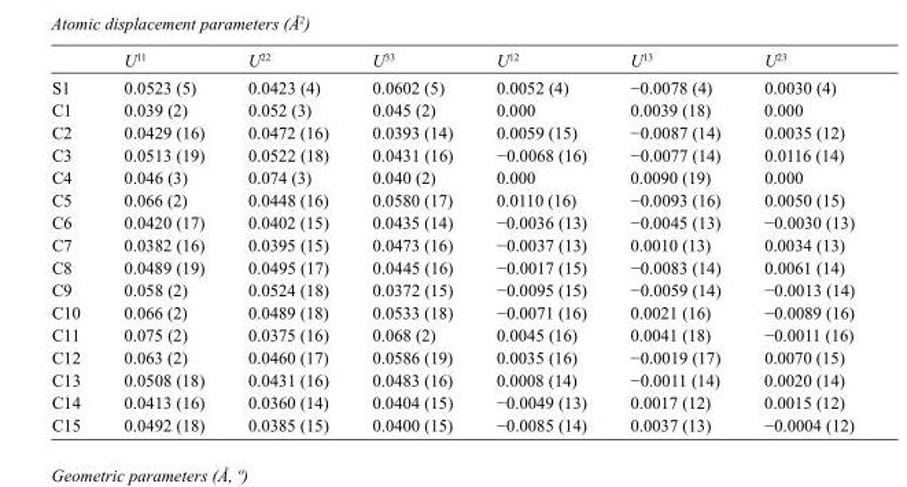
<table><thead><tr><td></td><td>U<sup>11</sup></td><td>U<sup>22</sup></td><td>U<sup>33</sup></td><td>U<sup>12</sup></td><td>U<sup>13</sup></td><td>U<sup>23</sup></td></tr></thead><tbody><tr><td>S1</td><td>0.0523 (5)</td><td>0.0423 (4)</td><td>0.0602 (5)</td><td>0.0052 (4)</td><td>−0.0078 (4)</td><td>0.0030 (4)</td></tr><tr><td>C1</td><td>0.039 (2)</td><td>0.052 (3)</td><td>0.045 (2)</td><td>0.000</td><td>0.0039 (18)</td><td>0.000</td></tr><tr><td>C2</td><td>0.0429 (16)</td><td>0.0472 (16)</td><td>0.0393 (14)</td><td>0.0059 (15)</td><td>−0.0087 (14)</td><td>0.0035 (12)</td></tr><tr><td>C3</td><td>0.0513 (19)</td><td>0.0522 (18)</td><td>0.0431 (16)</td><td>−0.0068 (16)</td><td>−0.0077 (14)</td><td>0.0116 (14)</td></tr><tr><td>C4</td><td>0.046 (3)</td><td>0.074 (3)</td><td>0.040 (2)</td><td>0.000</td><td>0.0090 (19)</td><td>0.000</td></tr><tr><td>C5</td><td>0.066 (2)</td><td>0.0448 (16)</td><td>0.0580 (17)</td><td>0.0110 (16)</td><td>−0.0093 (16)</td><td>0.0050 (15)</td></tr><tr><td>C6</td><td>0.0420 (17)</td><td>0.0402 (15)</td><td>0.0435 (14)</td><td>−0.0036 (13)</td><td>−0.0045 (13)</td><td>−0.0030 (13)</td></tr><tr><td>C7</td><td>0.0382 (16)</td><td>0.0395 (15)</td><td>0.0473 (16)</td><td>−0.0037 (13)</td><td>0.0010 (13)</td><td>0.0034 (13)</td></tr><tr><td>C8</td><td>0.0489 (19)</td><td>0.0495 (17)</td><td>0.0445 (16)</td><td>−0.0017 (15)</td><td>−0.0083 (14)</td><td>0.0061 (14)</td></tr><tr><td>C9</td><td>0.058 (2)</td><td>0.0524 (18)</td><td>0.0372 (15)</td><td>−0.0095 (15)</td><td>−0.0059 (14)</td><td>−0.0013 (14)</td></tr><tr><td>C10</td><td>0.066 (2)</td><td>0.0489 (18)</td><td>0.0533 (18)</td><td>−0.0071 (16)</td><td>0.0021 (16)</td><td>−0.0089 (16)</td></tr><tr><td>C11</td><td>0.075 (2)</td><td>0.0375 (16)</td><td>0.068 (2)</td><td>0.0045 (16)</td><td>0.0041 (18)</td><td>−0.0011 (16)</td></tr><tr><td>C12</td><td>0.063 (2)</td><td>0.0460 (17)</td><td>0.0586 (19)</td><td>0.0035 (16)</td><td>−0.0019 (17)</td><td>0.0070 (15)</td></tr><tr><td>C13</td><td>0.0508 (18)</td><td>0.0431 (16)</td><td>0.0483 (16)</td><td>0.0008 (14)</td><td>−0.0011 (14)</td><td>0.0020 (14)</td></tr><tr><td>C14</td><td>0.0413 (16)</td><td>0.0360 (14)</td><td>0.0404 (15)</td><td>−0.0049 (13)</td><td>0.0017 (12)</td><td>0.0015 (12)</td></tr><tr><td>C15</td><td>0.0492 (18)</td><td>0.0385 (15)</td><td>0.0400 (15)</td><td>−0.0085 (14)</td><td>0.0037 (13)</td><td>−0.0004 (12)</td></tr></tbody></table>